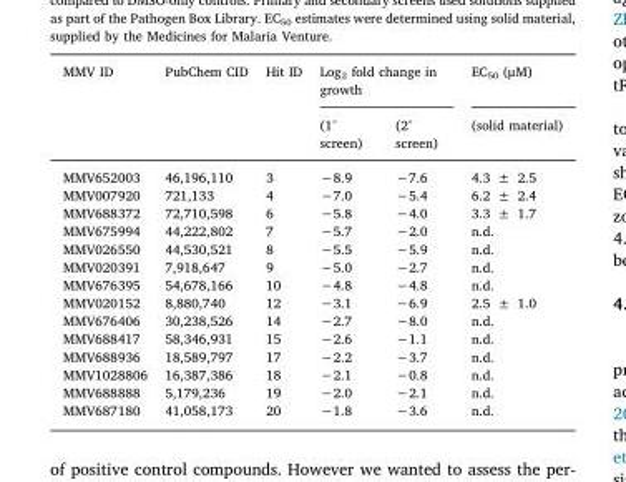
<table><thead><tr><td rowspan="2">MMV ID</td><td rowspan="2">PubChem CID</td><td rowspan="2">Hit ID</td><td colspan="2">Log<sub>2</sub> fold change in growth</td><td rowspan="2">EC<sub>50</sub> (μM) (solid material)</td></tr><tr><td>(1° screen)</td><td>(2° screen)</td></tr></thead><tbody><tr><td>MMV652003</td><td>46,196,110</td><td>3</td><td>−8.9</td><td>−7.6</td><td>4.3 ± 2.5</td></tr><tr><td>MMV007920</td><td>721,133</td><td>4</td><td>−7.0</td><td>−5.4</td><td>6.2 ± 2.4</td></tr><tr><td>MMV688372</td><td>72,710,598</td><td>6</td><td>−5.8</td><td>−4.0</td><td>3.3 ± 1.7</td></tr><tr><td>MMV675994</td><td>44,222,802</td><td>7</td><td>−5.7</td><td>−2.0</td><td>n.d.</td></tr><tr><td>MMV026550</td><td>44,530,521</td><td>8</td><td>−5.5</td><td>−5.9</td><td>n.d.</td></tr><tr><td>MMV020391</td><td>7,918,647</td><td>9</td><td>−5.0</td><td>−2.7</td><td>n.d.</td></tr><tr><td>MMV676395</td><td>54,678,166</td><td>10</td><td>−4.8</td><td>−4.8</td><td>n.d.</td></tr><tr><td>MMV020152</td><td>8,880,740</td><td>12</td><td>−3.1</td><td>−6.9</td><td>2.5 ± 1.0</td></tr><tr><td>MMV676406</td><td>30,238,526</td><td>14</td><td>−2.7</td><td>−8.0</td><td>n.d.</td></tr><tr><td>MMV688417</td><td>58,346,931</td><td>15</td><td>−2.6</td><td>−1.1</td><td>n.d.</td></tr><tr><td>MMV688936</td><td>18,589,797</td><td>17</td><td>−2.2</td><td>−3.7</td><td>n.d.</td></tr><tr><td>MMV1028806</td><td>16,387,386</td><td>18</td><td>−2.1</td><td>−0.8</td><td>n.d.</td></tr><tr><td>MMV688888</td><td>5,179,236</td><td>19</td><td>−2.0</td><td>−2.1</td><td>n.d.</td></tr><tr><td>MMV687180</td><td>41,058,173</td><td>20</td><td>−1.8</td><td>−3.6</td><td>n.d.</td></tr></tbody></table>